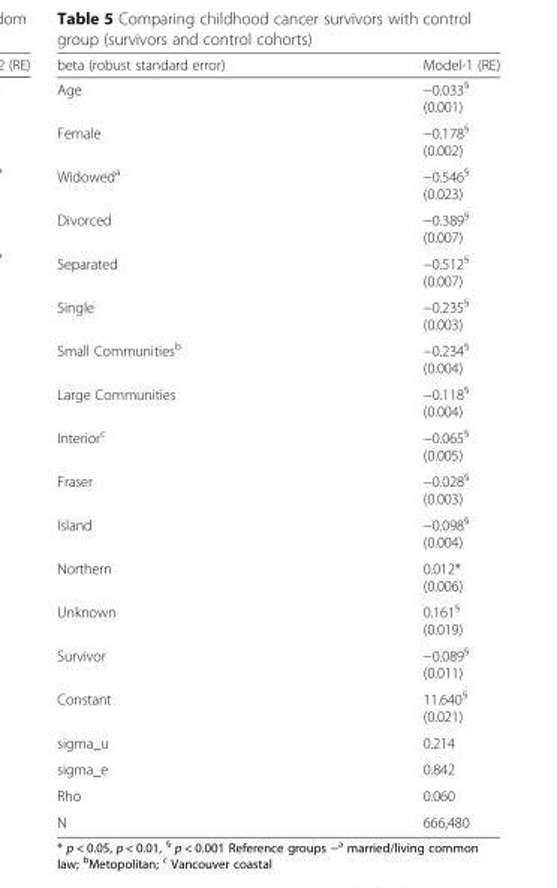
<table><thead><tr><td>beta (robust standard error)</td><td>Model-1 (RE)</td></tr></thead><tbody><tr><td>Age</td><td>−0.033<sup>§</sup> (0.001)</td></tr><tr><td>Female</td><td>−0.178<sup>§</sup> (0.002)</td></tr><tr><td>Widowed<sup>a</sup></td><td>−0.546<sup>§</sup> (0.023)</td></tr><tr><td>Divorced</td><td>−0.389<sup>§</sup> (0.007)</td></tr><tr><td>Separated</td><td>−0.512<sup>§</sup> (0.007)</td></tr><tr><td>Single</td><td>−0.235<sup>§</sup> (0.003)</td></tr><tr><td>Small Communities<sup>b</sup></td><td>−0.234<sup>§</sup> (0.004)</td></tr><tr><td>Large Communities</td><td>−0.118<sup>§</sup> (0.004)</td></tr><tr><td>Interior<sup>c</sup></td><td>−0.065<sup>§</sup> (0.005)</td></tr><tr><td>Fraser</td><td>−0.028<sup>§</sup> (0.003)</td></tr><tr><td>Island</td><td>−0.098<sup>§</sup> (0.004)</td></tr><tr><td>Northern</td><td>0.012* (0.006)</td></tr><tr><td>Unknown</td><td>0.161<sup>§</sup> (0.019)</td></tr><tr><td>Survivor</td><td>−0.089<sup>§</sup> (0.011)</td></tr><tr><td>Constant</td><td>11.640<sup>§</sup> (0.021)</td></tr><tr><td>sigma_u</td><td>0.214</td></tr><tr><td>sigma_e</td><td>0.842</td></tr><tr><td>Rho</td><td>0.060</td></tr><tr><td>N</td><td>666,480</td></tr></tbody></table>